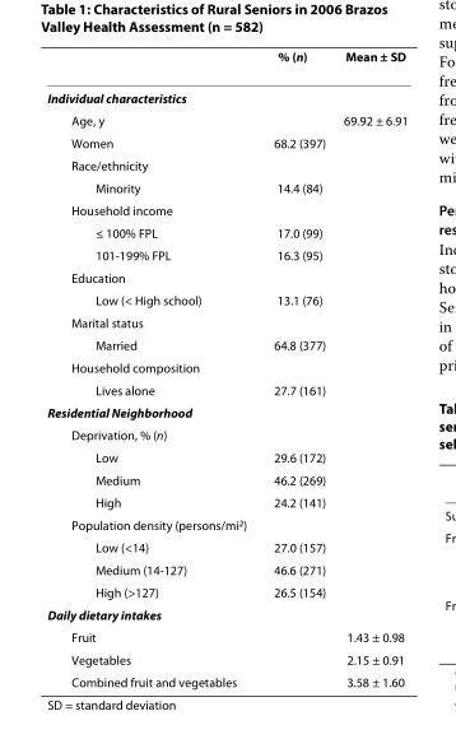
<table><thead><tr><td></td><td>% (n)</td><td>Mean ± SD</td></tr></thead><tbody><tr><td colspan="3">Individual characteristics</td></tr><tr><td>Age, y</td><td></td><td>69.92 ± 6.91</td></tr><tr><td>Women</td><td>68.2 (397)</td><td></td></tr><tr><td colspan="3">Race/ethnicity</td></tr><tr><td>Minority</td><td>14.4 (84)</td><td></td></tr><tr><td colspan="3">Household income</td></tr><tr><td>≤ 100% FPL</td><td>17.0 (99)</td><td></td></tr><tr><td>101-199% FPL</td><td>16.3 (95)</td><td></td></tr><tr><td colspan="3">Education</td></tr><tr><td>Low (&lt; High school)</td><td>13.1 (76)</td><td></td></tr><tr><td colspan="3">Marital status</td></tr><tr><td>Married</td><td>64.8 (377)</td><td></td></tr><tr><td colspan="3">Household composition</td></tr><tr><td>Lives alone</td><td>27.7 (161)</td><td></td></tr><tr><td colspan="3">Residential Neighborhood</td></tr><tr><td colspan="3">Deprivation, % (n)</td></tr><tr><td>Low</td><td>29.6 (172)</td><td></td></tr><tr><td>Medium</td><td>46.2 (269)</td><td></td></tr><tr><td>High</td><td>24.2 (141)</td><td></td></tr><tr><td colspan="3">Population density (persons/mi<sup>2</sup>)</td></tr><tr><td>Low (&lt;14)</td><td>27.0 (157)</td><td></td></tr><tr><td>Medium (14-127)</td><td>46.6 (271)</td><td></td></tr><tr><td>High (&gt;127)</td><td>26.5 (154)</td><td></td></tr><tr><td colspan="3">Daily dietary intakes</td></tr><tr><td>Fruit</td><td></td><td>1.43 ± 0.98</td></tr><tr><td>Vegetables</td><td></td><td>2.15 ± 0.91</td></tr><tr><td>Combined fruit and vegetables</td><td></td><td>3.58 ± 1.60</td></tr></tbody></table>